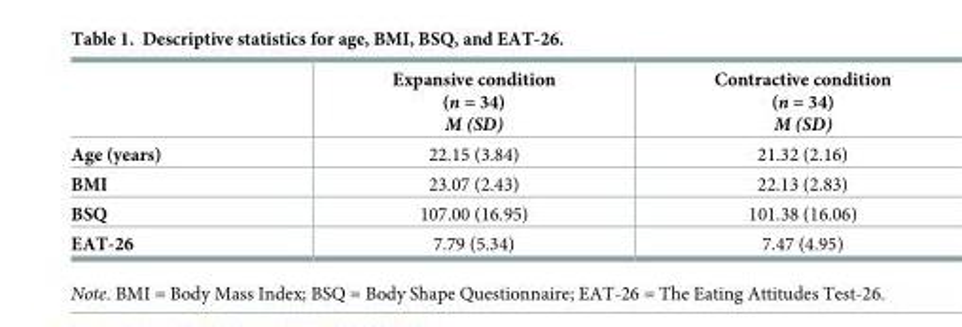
<table><thead><tr><td></td><td>Expansive condition (n = 34) M (SD)</td><td>Contractive condition (n = 34) M (SD)</td></tr></thead><tbody><tr><td>Age (years)</td><td>22.15 (3.84)</td><td>21.32 (2.16)</td></tr><tr><td>BMI</td><td>23.07 (2.43)</td><td>22.13 (2.83)</td></tr><tr><td>BSQ</td><td>107.00 (16.95)</td><td>101.38 (16.06)</td></tr><tr><td>EAT-26</td><td>7.79 (5.34)</td><td>7.47 (4.95)</td></tr></tbody></table>